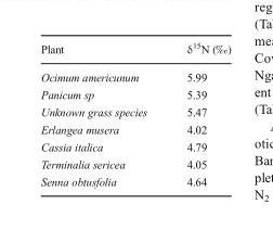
<table><thead><tr><td>Plant</td><td>δ<sup>15</sup>N (‰)</td></tr></thead><tbody><tr><td>Ocimum americunum</td><td>5.99</td></tr><tr><td>Panicum sp</td><td>5.39</td></tr><tr><td>Unknown grass species</td><td>5.47</td></tr><tr><td>Erlangea musera</td><td>4.02</td></tr><tr><td>Cassia italica</td><td>4.79</td></tr><tr><td>Terminalia sericea</td><td>4.05</td></tr><tr><td>Senna obtusfolia</td><td>4.64</td></tr></tbody></table>